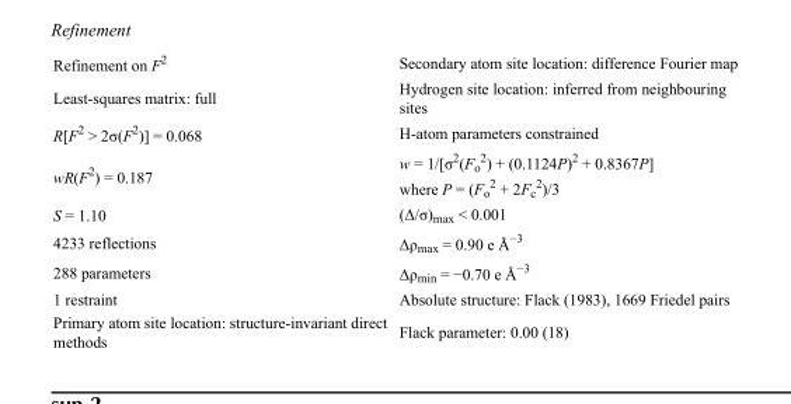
<table><tbody><tr><td>Refinement on F<sup>2</sup></td><td>Secondary atom site location: difference Fourier map</td></tr><tr><td>Least-squares matrix: full</td><td>Hydrogen site location: inferred from neighbouring sites</td></tr><tr><td>R[F<sup>2</sup> &gt; 2σ(F<sup>2</sup>)] = 0.068</td><td>H-atom parameters constrained</td></tr><tr><td>wR(F<sup>2</sup>) = 0.187</td><td>w = 1/[σ<sup>2</sup>(F<sub>o</sub> <sup>2</sup>) + (0.1124P)<sup>2</sup> + 0.8367P] where P = (F<sub>o</sub> <sup>2</sup> + 2F<sub>c</sub> <sup>2</sup>)/3</td></tr><tr><td>S = 1.10</td><td>(Δ/σ)<sub>max</sub> &lt; 0.001</td></tr><tr><td>4233 reflections</td><td>Δρ<sub>max</sub> = 0.90 e Å<sup>−3</sup></td></tr><tr><td>288 parameters</td><td>Δρ<sub>min</sub> = −0.70 e Å<sup>−3</sup></td></tr><tr><td>1 restraint</td><td>Absolute structure: Flack (1983), 1669 Friedel pairs</td></tr><tr><td>Primary atom site location: structure-invariant direct methods</td><td>Flack parameter: 0.00 (18)</td></tr></tbody></table>